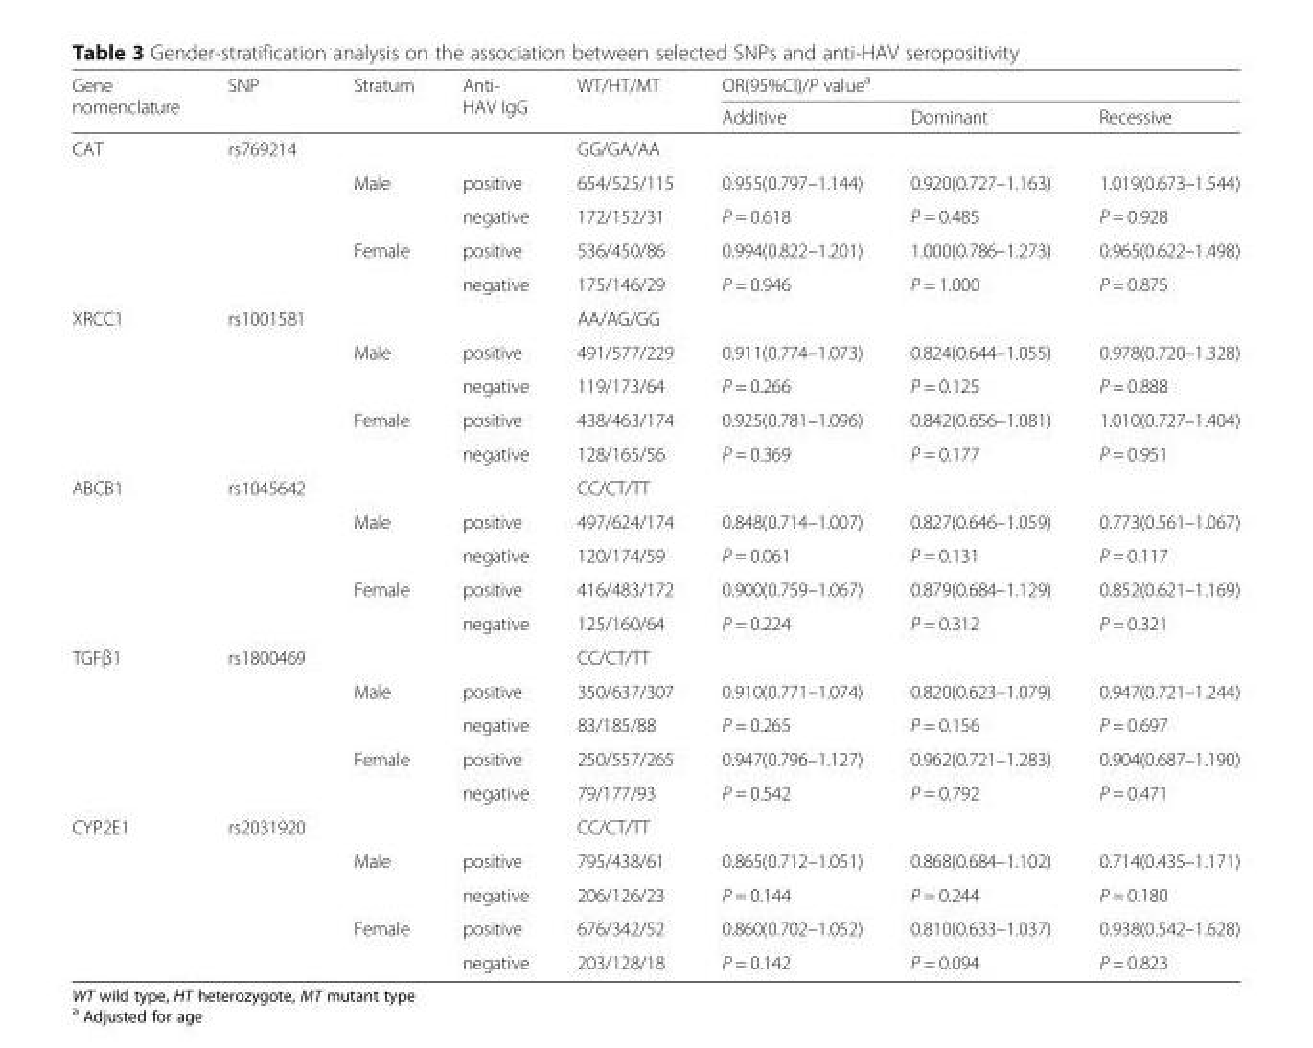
<table><thead><tr><td rowspan="2">Gene nomenclature</td><td rowspan="2">SNP</td><td rowspan="2">Stratum</td><td rowspan="2">Anti- HAV IgG</td><td rowspan="2">WT/HT/MT</td><td colspan="3">OR(95%CI)/P value<sup>a</sup></td></tr><tr><td>Additive</td><td>Dominant</td><td>Recessive</td></tr></thead><tbody><tr><td rowspan="5">CAT</td><td rowspan="5">rs769214</td><td></td><td></td><td>GG/GA/AA</td><td></td><td></td><td></td></tr><tr><td>Male</td><td>positive</td><td>654/525/115</td><td>0.955(0.797–1.144)</td><td>0.920(0.727–1.163)</td><td>1.019(0.673–1.544)</td></tr><tr><td></td><td>negative</td><td>172/152/31</td><td>P = 0.618</td><td>P = 0.485</td><td>P = 0.928</td></tr><tr><td rowspan="2">Female</td><td>positive</td><td>536/450/86</td><td>0.994(0.822–1.201)</td><td>1.000(0.786–1.273)</td><td>0.965(0.622–1.498)</td></tr><tr><td>negative</td><td>175/146/29</td><td>P = 0.946</td><td>P = 1.000</td><td>P = 0.875</td></tr><tr><td rowspan="5">XRCC1</td><td rowspan="5">rs1001581</td><td></td><td></td><td>AA/AG/GG</td><td></td><td></td><td></td></tr><tr><td>Male</td><td>positive</td><td>491/577/229</td><td>0.911(0.774–1.073)</td><td>0.824(0.644–1.055)</td><td>0.978(0.720–1.328)</td></tr><tr><td></td><td>negative</td><td>119/173/64</td><td>P = 0.266</td><td>P = 0.125</td><td>P = 0.888</td></tr><tr><td rowspan="2">Female</td><td>positive</td><td>438/463/174</td><td>0.925(0.781–1.096)</td><td>0.842(0.656–1.081)</td><td>1.010(0.727–1.404)</td></tr><tr><td>negative</td><td>128/165/56</td><td>P = 0.369</td><td>P = 0.177</td><td>P = 0.951</td></tr><tr><td rowspan="5">ABCB1</td><td rowspan="5">rs1045642</td><td></td><td></td><td>CC/CT/TT</td><td></td><td></td><td></td></tr><tr><td>Male</td><td>positive</td><td>497/624/174</td><td>0.848(0.714–1.007)</td><td>0.827(0.646–1.059)</td><td>0.773(0.561–1.067)</td></tr><tr><td></td><td>negative</td><td>120/174/59</td><td>P = 0.061</td><td>P = 0.131</td><td>P = 0.117</td></tr><tr><td rowspan="2">Female</td><td>positive</td><td>416/483/172</td><td>0.900(0.759–1.067)</td><td>0.879(0.684–1.129)</td><td>0.852(0.621–1.169)</td></tr><tr><td>negative</td><td>125/160/64</td><td>P = 0.224</td><td>P = 0.312</td><td>P = 0.321</td></tr><tr><td rowspan="5">TGFβ1</td><td rowspan="5">rs1800469</td><td></td><td></td><td>CC/CT/TT</td><td></td><td></td><td></td></tr><tr><td>Male</td><td>positive</td><td>350/637/307</td><td>0.910(0.771–1.074)</td><td>0.820(0.623–1.079)</td><td>0.947(0.721–1.244)</td></tr><tr><td></td><td>negative</td><td>83/185/88</td><td>P = 0.265</td><td>P = 0.156</td><td>P = 0.697</td></tr><tr><td rowspan="2">Female</td><td>positive</td><td>250/557/265</td><td>0.947(0.796–1.127)</td><td>0.962(0.721–1.283)</td><td>0.904(0.687–1.190)</td></tr><tr><td>negative</td><td>79/177/93</td><td>P = 0.542</td><td>P = 0.792</td><td>P = 0.471</td></tr><tr><td rowspan="5">CYP2E1</td><td>rs2031920</td><td></td><td></td><td>CC/CT/TT</td><td></td><td></td><td></td></tr><tr><td rowspan="4"></td><td rowspan="2">Male</td><td>positive</td><td>795/438/61</td><td>0.865(0.712–1.051)</td><td>0.868(0.684–1.102)</td><td>0.714(0.435–1.171)</td></tr><tr><td>negative</td><td>206/126/23</td><td>P = 0.144</td><td>P = 0.244</td><td>P = 0.180</td></tr><tr><td rowspan="2">Female</td><td>positive</td><td>676/342/52</td><td>0.860(0.702–1.052)</td><td>0.810(0.633–1.037)</td><td>0.938(0.542–1.628)</td></tr><tr><td>negative</td><td>203/128/18</td><td>P = 0.142</td><td>P = 0.094</td><td>P = 0.823</td></tr></tbody></table>